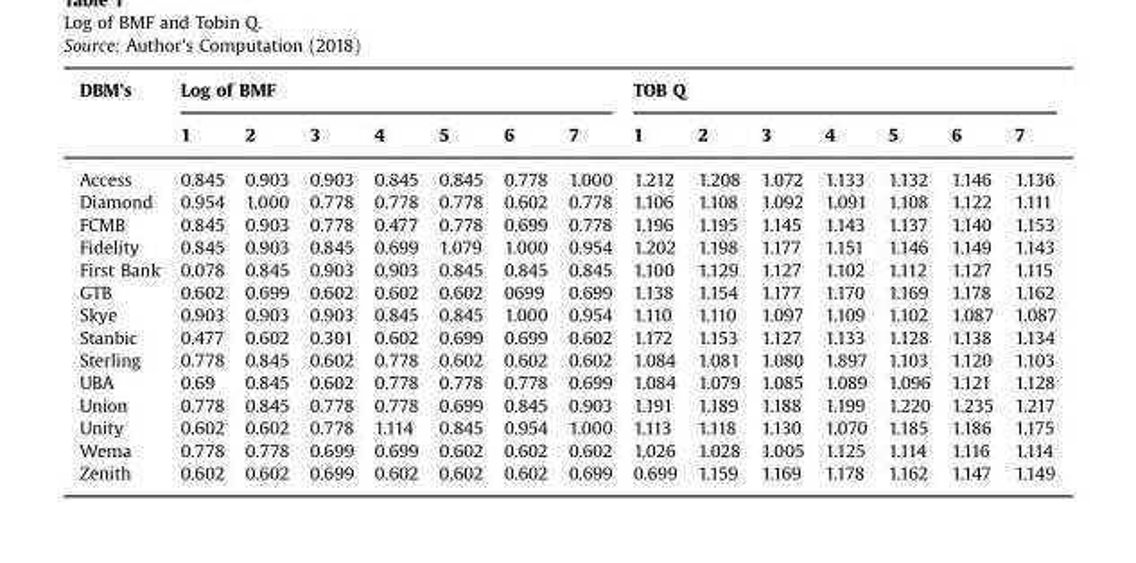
<table><thead><tr><td rowspan="2">DBM&#x27;s</td><td colspan="7">Log of BMF</td><td colspan="7">TOB Q</td></tr><tr><td>1</td><td>2</td><td>3</td><td>4</td><td>5</td><td>6</td><td>7</td><td>1</td><td>2</td><td>3</td><td>4</td><td>5</td><td>6</td><td>7</td></tr></thead><tbody><tr><td>Access</td><td>0.845</td><td>0.903</td><td>0.903</td><td>0.845</td><td>0.845</td><td>0.778</td><td>1.000</td><td>1.212</td><td>1.208</td><td>1.072</td><td>1.133</td><td>1.132</td><td>1.146</td><td>1.136</td></tr><tr><td>Diamond</td><td>0.954</td><td>1.000</td><td>0.778</td><td>0.778</td><td>0.778</td><td>0.602</td><td>0.778</td><td>1.106</td><td>1.108</td><td>1.092</td><td>1.091</td><td>1.108</td><td>1.122</td><td>1.111</td></tr><tr><td>FCMB</td><td>0.845</td><td>0.903</td><td>0.778</td><td>0.477</td><td>0.778</td><td>0.699</td><td>0.778</td><td>1.196</td><td>1.195</td><td>1.145</td><td>1.143</td><td>1.137</td><td>1.140</td><td>1.153</td></tr><tr><td>Fidelity</td><td>0.845</td><td>0.903</td><td>0.845</td><td>0.699</td><td>1.079</td><td>1.000</td><td>0.954</td><td>1.202</td><td>1.198</td><td>1.177</td><td>1.151</td><td>1.146</td><td>1.149</td><td>1.143</td></tr><tr><td>First Bank</td><td>0.078</td><td>0.845</td><td>0.903</td><td>0.903</td><td>0.845</td><td>0.845</td><td>0.845</td><td>1.100</td><td>1.129</td><td>1.127</td><td>1.102</td><td>1.112</td><td>1.127</td><td>1.115</td></tr><tr><td>GTB</td><td>0.602</td><td>0.699</td><td>0.602</td><td>0.602</td><td>0.602</td><td>0699</td><td>0.699</td><td>1.138</td><td>1.154</td><td>1.177</td><td>1.170</td><td>1.169</td><td>1.178</td><td>1.162</td></tr><tr><td>Skye</td><td>0.903</td><td>0.903</td><td>0.903</td><td>0.845</td><td>0.845</td><td>1.000</td><td>0.954</td><td>1.110</td><td>1.110</td><td>1.097</td><td>1.109</td><td>1.102</td><td>1.087</td><td>1.087</td></tr><tr><td>Stanbic</td><td>0.477</td><td>0.602</td><td>0.301</td><td>0.602</td><td>0.699</td><td>0.699</td><td>0.602</td><td>1.172</td><td>1.153</td><td>1.127</td><td>1.133</td><td>1.128</td><td>1.138</td><td>1.134</td></tr><tr><td>Sterling</td><td>0.778</td><td>0.845</td><td>0.602</td><td>0.778</td><td>0.602</td><td>0.602</td><td>0.602</td><td>1.084</td><td>1.081</td><td>1.080</td><td>1.897</td><td>1.103</td><td>1.120</td><td>1.103</td></tr><tr><td>UBA</td><td>0.69</td><td>0.845</td><td>0.602</td><td>0.778</td><td>0.778</td><td>0.778</td><td>0.699</td><td>1.084</td><td>1.079</td><td>1.085</td><td>1.089</td><td>1.096</td><td>1.121</td><td>1.128</td></tr><tr><td>Union</td><td>0.778</td><td>0.845</td><td>0.778</td><td>0.778</td><td>0.699</td><td>0.845</td><td>0.903</td><td>1.191</td><td>1.189</td><td>1.188</td><td>1.199</td><td>1.220</td><td>1.235</td><td>1.217</td></tr><tr><td>Unity</td><td>0.602</td><td>0.602</td><td>0.778</td><td>1.114</td><td>0.845</td><td>0.954</td><td>1.000</td><td>1.113</td><td>1.118</td><td>1.130</td><td>1.070</td><td>1.185</td><td>1.186</td><td>1.175</td></tr><tr><td>Wema</td><td>0.778</td><td>0.778</td><td>0.699</td><td>0.699</td><td>0.602</td><td>0.602</td><td>0.602</td><td>1.026</td><td>1.028</td><td>1.005</td><td>1.125</td><td>1.114</td><td>1.116</td><td>1.114</td></tr><tr><td>Zenith</td><td>0.602</td><td>0.602</td><td>0.699</td><td>0.602</td><td>0.602</td><td>0.602</td><td>0.699</td><td>0.699</td><td>1.159</td><td>1.169</td><td>1.178</td><td>1.162</td><td>1.147</td><td>1.149</td></tr></tbody></table>